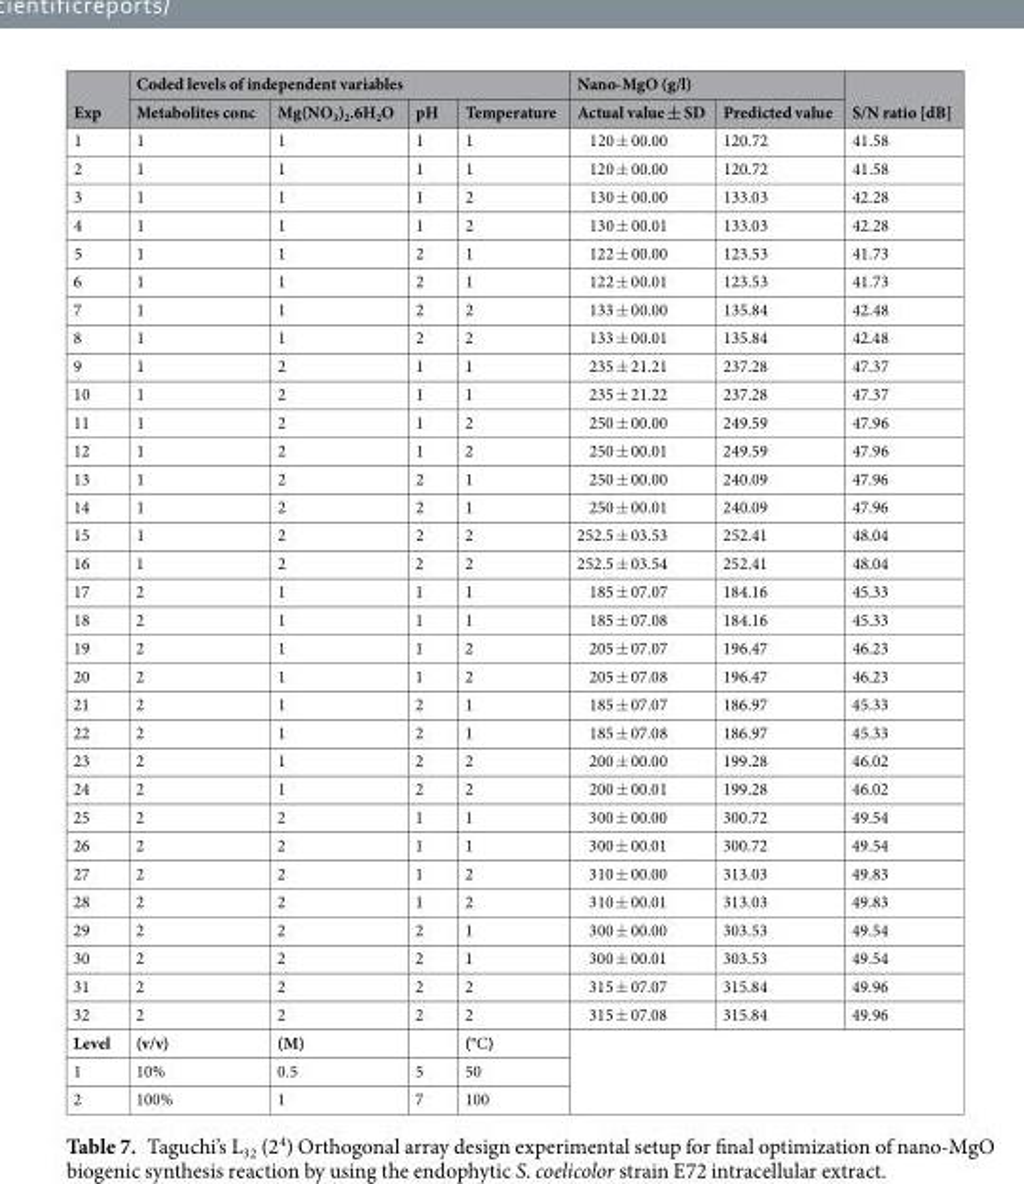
<table><thead><tr><td rowspan="2">Exp</td><td colspan="4">Coded levels of independent variables</td><td colspan="2">Nano-MgO (g/l)</td><td rowspan="2">S/N ratio [dB]</td></tr><tr><td>Metabolites conc</td><td>Mg(NO<sub>3</sub>)<sub>2</sub>.6H<sub>2</sub>O</td><td>pH</td><td>Temperature</td><td>Actual value ± SD</td><td>Predicted value</td></tr></thead><tbody><tr><td>1</td><td>1</td><td>1</td><td>1</td><td>1</td><td>120 ± 00.00</td><td>120.72</td><td>41.58</td></tr><tr><td>2</td><td>1</td><td>1</td><td>1</td><td>1</td><td>120 ± 00.00</td><td>120.72</td><td>41.58</td></tr><tr><td>3</td><td>1</td><td>1</td><td>1</td><td>2</td><td>130 ± 00.00</td><td>133.03</td><td>42.28</td></tr><tr><td>4</td><td>1</td><td>1</td><td>1</td><td>2</td><td>130 ± 00.01</td><td>133.03</td><td>42.28</td></tr><tr><td>5</td><td>1</td><td>1</td><td>2</td><td>1</td><td>122 ± 00.00</td><td>123.53</td><td>41.73</td></tr><tr><td>6</td><td>1</td><td>1</td><td>2</td><td>1</td><td>122 ± 00.01</td><td>123.53</td><td>41.73</td></tr><tr><td>7</td><td>1</td><td>1</td><td>2</td><td>2</td><td>133 ± 00.00</td><td>135.84</td><td>42.48</td></tr><tr><td>8</td><td>1</td><td>1</td><td>2</td><td>2</td><td>133 ± 00.01</td><td>135.84</td><td>42.48</td></tr><tr><td>9</td><td>1</td><td>2</td><td>1</td><td>1</td><td>235 ± 21.21</td><td>237.28</td><td>47.37</td></tr><tr><td>10</td><td>1</td><td>2</td><td>1</td><td>1</td><td>235 ± 21.22</td><td>237.28</td><td>47.37</td></tr><tr><td>11</td><td>1</td><td>2</td><td>1</td><td>2</td><td>250 ± 00.00</td><td>249.59</td><td>47.96</td></tr><tr><td>12</td><td>1</td><td>2</td><td>1</td><td>2</td><td>250 ± 00.01</td><td>249.59</td><td>47.96</td></tr><tr><td>13</td><td>1</td><td>2</td><td>2</td><td>1</td><td>250 ± 00.00</td><td>240.09</td><td>47.96</td></tr><tr><td>14</td><td>1</td><td>2</td><td>2</td><td>1</td><td>250 ± 00.01</td><td>240.09</td><td>47.96</td></tr><tr><td>15</td><td>1</td><td>2</td><td>2</td><td>2</td><td>252.5 ± 03.53</td><td>252.41</td><td>48.04</td></tr><tr><td>16</td><td>1</td><td>2</td><td>2</td><td>2</td><td>252.5 ± 03.54</td><td>252.41</td><td>48.04</td></tr><tr><td>17</td><td>2</td><td>1</td><td>1</td><td>1</td><td>185 ± 07.07</td><td>184.16</td><td>45.33</td></tr><tr><td>18</td><td>2</td><td>1</td><td>1</td><td>1</td><td>185 ± 07.08</td><td>184.16</td><td>45.33</td></tr><tr><td>19</td><td>2</td><td>1</td><td>1</td><td>2</td><td>205 ± 07.07</td><td>196.47</td><td>46.23</td></tr><tr><td>20</td><td>2</td><td>1</td><td>1</td><td>2</td><td>205 ± 07.08</td><td>196.47</td><td>46.23</td></tr><tr><td>21</td><td>2</td><td>1</td><td>2</td><td>1</td><td>185 ± 07.07</td><td>186.97</td><td>45.33</td></tr><tr><td>22</td><td>2</td><td>1</td><td>2</td><td>1</td><td>185 ± 07.08</td><td>186.97</td><td>45.33</td></tr><tr><td>23</td><td>2</td><td>1</td><td>2</td><td>2</td><td>200 ± 00.00</td><td>199.28</td><td>46.02</td></tr><tr><td>24</td><td>2</td><td>1</td><td>2</td><td>2</td><td>200 ± 00.01</td><td>199.28</td><td>46.02</td></tr><tr><td>25</td><td>2</td><td>2</td><td>1</td><td>1</td><td>300 ± 00.00</td><td>300.72</td><td>49.54</td></tr><tr><td>26</td><td>2</td><td>2</td><td>1</td><td>1</td><td>300 ± 00.01</td><td>300.72</td><td>49.54</td></tr><tr><td>27</td><td>2</td><td>2</td><td>1</td><td>2</td><td>310 ± 00.00</td><td>313.03</td><td>49.83</td></tr><tr><td>28</td><td>2</td><td>2</td><td>1</td><td>2</td><td>310 ± 00.01</td><td>313.03</td><td>49.83</td></tr><tr><td>29</td><td>2</td><td>2</td><td>2</td><td>1</td><td>300 ± 00.00</td><td>303.53</td><td>49.54</td></tr><tr><td>30</td><td>2</td><td>2</td><td>2</td><td>1</td><td>300 ± 00.01</td><td>303.53</td><td>49.54</td></tr><tr><td>31</td><td>2</td><td>2</td><td>2</td><td>2</td><td>315 ± 07.07</td><td>315.84</td><td>49.96</td></tr><tr><td>32</td><td>2</td><td>2</td><td>2</td><td>2</td><td>315 ± 07.08</td><td>315.84</td><td>49.96</td></tr><tr><td>Level</td><td>(v/v)</td><td>(M)</td><td></td><td>(°C)</td><td rowspan="3" colspan="3"></td></tr><tr><td>1</td><td>10%</td><td>0.5</td><td>5</td><td>50</td></tr><tr><td>2</td><td>100%</td><td>1</td><td>7</td><td>100</td></tr></tbody></table>